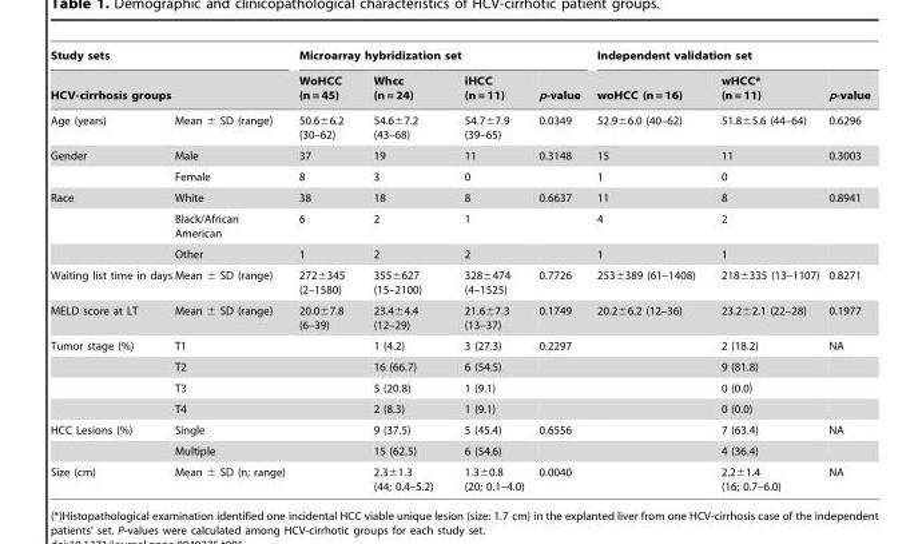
<table><thead><tr><td colspan="2">Study sets</td><td colspan="4">Microarray hybridization set</td><td colspan="3">Independent validation set</td></tr><tr><td>HCV-cirrhosis groups</td><td></td><td>WoHCC (n = 45)</td><td>Whcc (n = 24)</td><td>iHCC (n = 11)</td><td>p-value</td><td>woHCC (n = 16)</td><td>wHCC* (n = 11)</td><td>p-value</td></tr></thead><tbody><tr><td>Age (years)</td><td>Mean ± SD (range)</td><td>50.6±6.2 (30–62)</td><td>54.6±7.2 (43–68)</td><td>54.7±7.9 (39–65)</td><td>0.0349</td><td>52.9±6.0 (40–62)</td><td>51.8±5.6 (44–64)</td><td>0.6296</td></tr><tr><td rowspan="2">Gender</td><td>Male</td><td>37</td><td>19</td><td>11</td><td>0.3148</td><td>15</td><td>11</td><td>0.3003</td></tr><tr><td>Female</td><td>8</td><td>3</td><td>0</td><td></td><td>1</td><td>0</td><td></td></tr><tr><td rowspan="3">Race</td><td>White</td><td>38</td><td>18</td><td>8</td><td>0.6637</td><td>11</td><td>8</td><td>0.8941</td></tr><tr><td>Black/African American</td><td>6</td><td>2</td><td>1</td><td></td><td>4</td><td>2</td><td></td></tr><tr><td>Other</td><td>1</td><td>2</td><td>2</td><td></td><td>1</td><td>1</td><td></td></tr><tr><td>Waiting list time in days</td><td>Mean ± SD (range)</td><td>272±345 (2–1580)</td><td>355±627 (15–2100)</td><td>328±474 (4–1525)</td><td>0.7726</td><td>253±389 (61–1408)</td><td>218±335 (13–1107)</td><td>0.8271</td></tr><tr><td>MELD score at LT</td><td>Mean ± SD (range)</td><td>20.0±7.8 (6–39)</td><td>23.4±4.4 (12–29)</td><td>21.6±7.3 (13–37)</td><td>0.1749</td><td>20.2±6.2 (12–36)</td><td>23.2±2.1 (22–28)</td><td>0.1977</td></tr><tr><td rowspan="4">Tumor stage (%)</td><td>T1</td><td></td><td>1 (4.2)</td><td>3 (27.3)</td><td>0.2297</td><td></td><td>2 (18.2)</td><td>NA</td></tr><tr><td>T2</td><td></td><td>16 (66.7)</td><td>6 (54.5)</td><td></td><td></td><td>9 (81.8)</td><td></td></tr><tr><td>T3</td><td></td><td>5 (20.8)</td><td>1 (9.1)</td><td></td><td></td><td>0 (0.0)</td><td></td></tr><tr><td>T4</td><td></td><td>2 (8.3)</td><td>1 (9.1)</td><td></td><td></td><td>0 (0.0)</td><td></td></tr><tr><td rowspan="2">HCC Lesions (%)</td><td>Single</td><td></td><td>9 (37.5)</td><td>5 (45.4)</td><td>0.6556</td><td></td><td>7 (63.4)</td><td>NA</td></tr><tr><td>Multiple</td><td></td><td>15 (62.5)</td><td>6 (54.6)</td><td></td><td></td><td>4 (36.4)</td><td></td></tr><tr><td>Size (cm)</td><td>Mean ± SD (n; range)</td><td></td><td>2.3±1.3 (44; 0.4–5.2)</td><td>1.3±0.8 (20; 0.1–4.0)</td><td>0.0040</td><td></td><td>2.2±1.4 (16; 0.7–6.0)</td><td>NA</td></tr></tbody></table>